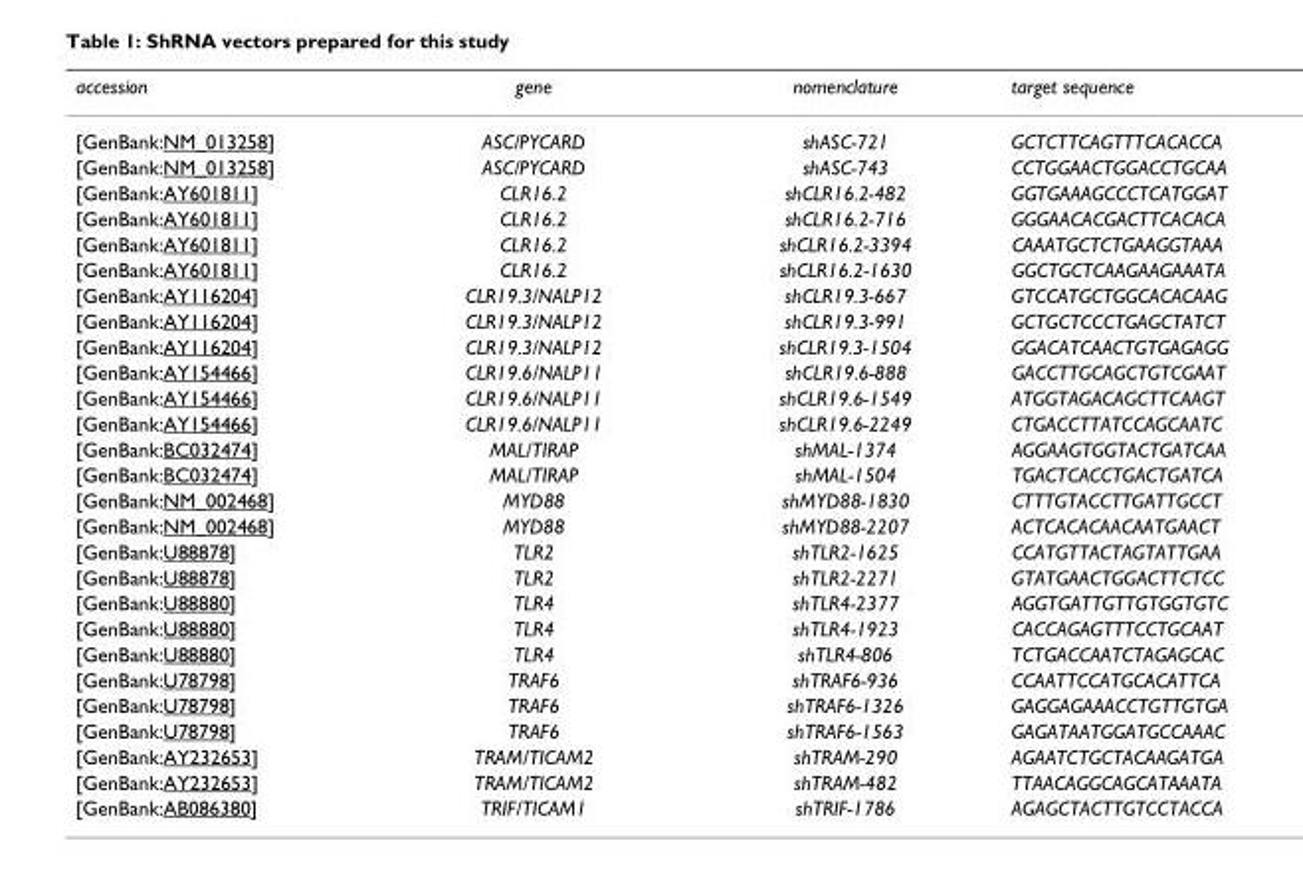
<table><thead><tr><td>accession</td><td>gene</td><td>nomenclature</td><td>target sequence</td></tr></thead><tbody><tr><td>[GenBank:NM_013258]</td><td>ASC/PYCARD</td><td>shASC-721</td><td>GCTCTTCAGTTTCACACCA</td></tr><tr><td>[GenBank:NM_013258]</td><td>ASC/PYCARD</td><td>shASC-743</td><td>CCTGGAACTGGACCTGCAA</td></tr><tr><td>[GenBank:AY601811]</td><td>CLR16.2</td><td>shCLR16.2-482</td><td>GGTGAAAGCCCTCATGGAT</td></tr><tr><td>[GenBank:AY601811]</td><td>CLR16.2</td><td>shCLR16.2-716</td><td>GGGAACACGACTTCACACA</td></tr><tr><td>[GenBank:AY601811]</td><td>CLR16.2</td><td>shCLR16.2-3394</td><td>CAAATGCTCTGAAGGTAAA</td></tr><tr><td>[GenBank:AY601811]</td><td>CLR16.2</td><td>shCLR16.2-1630</td><td>GGCTGCTCAAGAAGAAATA</td></tr><tr><td>[GenBank:AY116204]</td><td>CLR19.3/NALP12</td><td>shCLR19.3-667</td><td>GTCCATGCTGGCACACAAG</td></tr><tr><td>[GenBank:AY116204]</td><td>CLR19.3/NALP12</td><td>shCLR19.3-991</td><td>GCTGCTCCCTGAGCTATCT</td></tr><tr><td>[GenBank:AY116204]</td><td>CLR19.3/NALP12</td><td>shCLR19.3-1504</td><td>GGACATCAACTGTGAGAGG</td></tr><tr><td>[GenBank:AY154466]</td><td>CLR19.6/NALP11</td><td>shCLR19.6-888</td><td>GACCTTGCAGCTGTCGAAT</td></tr><tr><td>[GenBank:AY154466]</td><td>CLR19.6/NALP11</td><td>shCLR19.6-1549</td><td>ATGGTAGACAGCTTCAAGT</td></tr><tr><td>[GenBank:AY154466]</td><td>CLR19.6/NALP11</td><td>shCLR19.6-2249</td><td>CTGACCTTATCCAGCAATC</td></tr><tr><td>[GenBank:BC032474]</td><td>MAL/TIRAP</td><td>shMAL-1374</td><td>AGGAAGTGGTACTGATCAA</td></tr><tr><td>[GenBank:BC032474]</td><td>MAL/TIRAP</td><td>shMAL-1504</td><td>TGACTCACCTGACTGATCA</td></tr><tr><td>[GenBank:NM_002468]</td><td>MYD88</td><td>shMYD88-1830</td><td>CTTTGTACCTTGATTGCCT</td></tr><tr><td>[GenBank:NM_002468]</td><td>MYD88</td><td>shMYD88-2207</td><td>ACTCACACAACAATGAACT</td></tr><tr><td>[GenBank:U88878]</td><td>TLR2</td><td>shTLR2-1625</td><td>CCATGTTACTAGTATTGAA</td></tr><tr><td>[GenBank:U88878]</td><td>TLR2</td><td>shTLR2-2271</td><td>GTATGAACTGGACTTCTCC</td></tr><tr><td>[GenBank:U88880]</td><td>TLR4</td><td>shTLR4-2377</td><td>AGGTGATTGTTGTGGTGTC</td></tr><tr><td>[GenBank:U88880]</td><td>TLR4</td><td>shTLR4-1923</td><td>CACCAGAGTTTCCTGCAAT</td></tr><tr><td>[GenBank:U88880]</td><td>TLR4</td><td>shTLR4-806</td><td>TCTGACCAATCTAGAGCAC</td></tr><tr><td>[GenBank:U78798]</td><td>TRAF6</td><td>shTRAF6-936</td><td>CCAATTCCATGCACATTCA</td></tr><tr><td>[GenBank:U78798]</td><td>TRAF6</td><td>shTRAF6-1326</td><td>GAGGAGAAACCTGTTGTGA</td></tr><tr><td>[GenBank:U78798]</td><td>TRAF6</td><td>shTRAF6-1563</td><td>GAGATAATGGATGCCAAAC</td></tr><tr><td>[GenBank:AY232653]</td><td>TRAM/TICAM2</td><td>shTRAM-290</td><td>AGAATCTGCTACAAGATGA</td></tr><tr><td>[GenBank:AY232653]</td><td>TRAM/TICAM2</td><td>shTRAM-482</td><td>TTAACAGGCAGCATAAATA</td></tr><tr><td>[GenBank:AB086380]</td><td>TRIF/TICAM1</td><td>shTRIF-1786</td><td>AGAGCTACTTGTCCTACCA</td></tr></tbody></table>